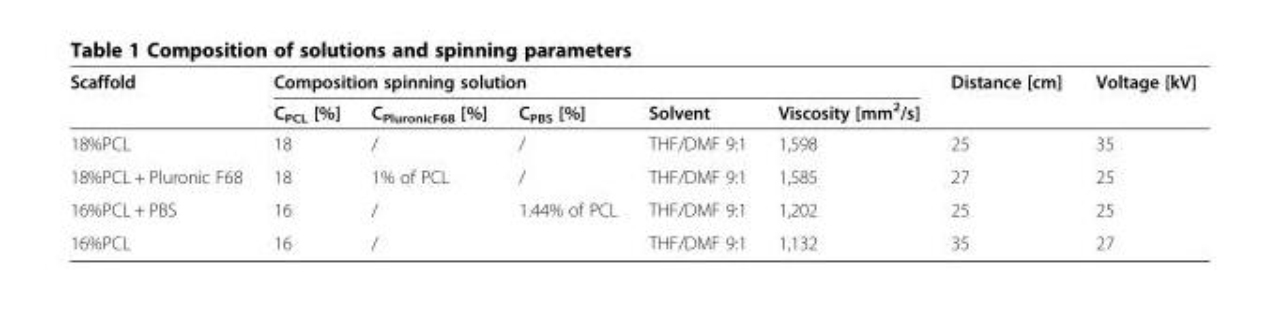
<table><thead><tr><td rowspan="2">Scaffold</td><td colspan="5">Composition spinning solution</td><td rowspan="2">Distance [cm]</td><td rowspan="2">Voltage [kV]</td></tr><tr><td>C<sub>PCL</sub> [%]</td><td>C<sub>PluronicF68</sub> [%]</td><td>C<sub>PBS</sub> [%]</td><td>Solvent</td><td>Viscosity [mm<sup>2</sup>/s]</td></tr></thead><tbody><tr><td>18%PCL</td><td>18</td><td>/</td><td>/</td><td>THF/DMF 9:1</td><td>1,598</td><td>25</td><td>35</td></tr><tr><td>18%PCL + Pluronic F68</td><td>18</td><td>1% of PCL</td><td>/</td><td>THF/DMF 9:1</td><td>1,585</td><td>27</td><td>25</td></tr><tr><td>16%PCL + PBS</td><td>16</td><td>/</td><td>1.44% of PCL</td><td>THF/DMF 9:1</td><td>1,202</td><td>25</td><td>25</td></tr><tr><td>16%PCL</td><td>16</td><td>/</td><td></td><td>THF/DMF 9:1</td><td>1,132</td><td>35</td><td>27</td></tr></tbody></table>